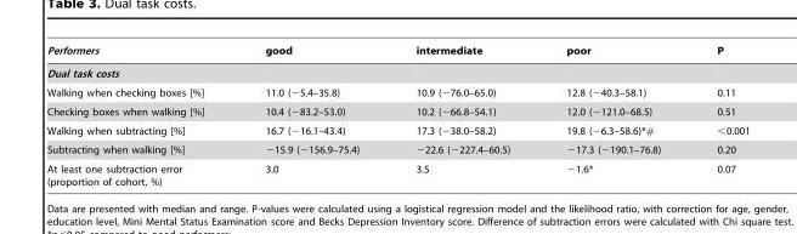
<table><thead><tr><td>Performers</td><td>good</td><td>intermediate</td><td>poor</td><td>P</td></tr></thead><tbody><tr><td colspan="5">Dual task costs</td></tr><tr><td>Walking when checking boxes [%]</td><td>11.0 (−5.4–35.8)</td><td>10.9 (−76.0–65.0)</td><td>12.8 (−40.3–58.1)</td><td>0.11</td></tr><tr><td>Checking boxes when walking [%]</td><td>10.4 (−83.2–53.0)</td><td>10.2 (−66.8–54.1)</td><td>12.0 (−121.0–68.5)</td><td>0.51</td></tr><tr><td>Walking when subtracting [%]</td><td>16.7 (−16.1–43.4)</td><td>17.3 (−38.0–58.2)</td><td>19.8 (−6.3–58.6)*#</td><td>&lt;0.001</td></tr><tr><td>Subtracting when walking [%]</td><td>−15.9 (−156.9–75.4)</td><td>−22.6 (−227.4–60.5)</td><td>−17.3 (−190.1–76.8)</td><td>0.20</td></tr><tr><td>At least one subtraction error (proportion of cohort, %)</td><td>3.0</td><td>3.5</td><td>−1.6*</td><td>0.07</td></tr></tbody></table>